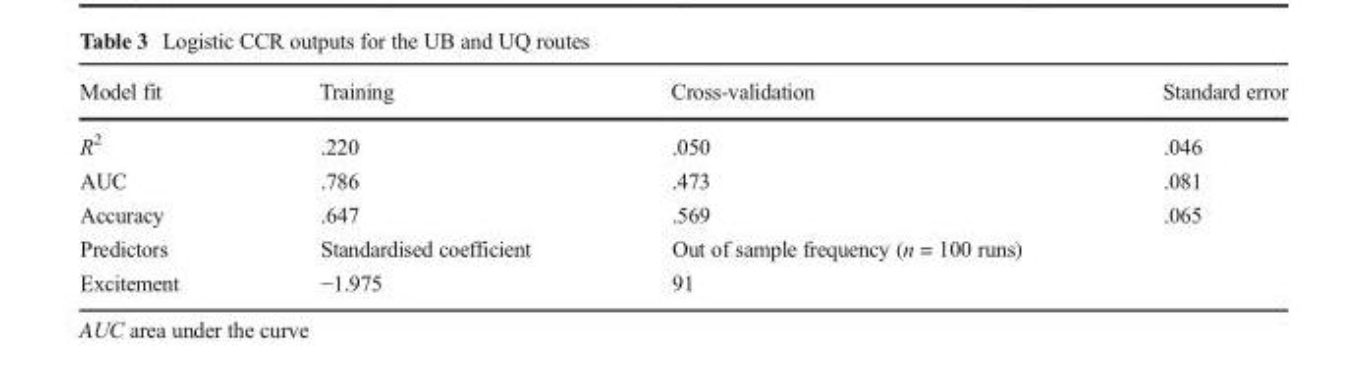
<table><thead><tr><td>Model fit</td><td>Training</td><td>Cross-validation</td><td>Standard error</td></tr></thead><tbody><tr><td>R<sup>2</sup></td><td>.220</td><td>.050</td><td>.046</td></tr><tr><td>AUC</td><td>.786</td><td>.473</td><td>.081</td></tr><tr><td>Accuracy</td><td>.647</td><td>.569</td><td>.065</td></tr><tr><td>Predictors</td><td>Standardised coefficient</td><td>Out of sample frequency (n = 100 runs)</td><td></td></tr><tr><td>Excitement</td><td>−1.975</td><td>91</td><td></td></tr></tbody></table>